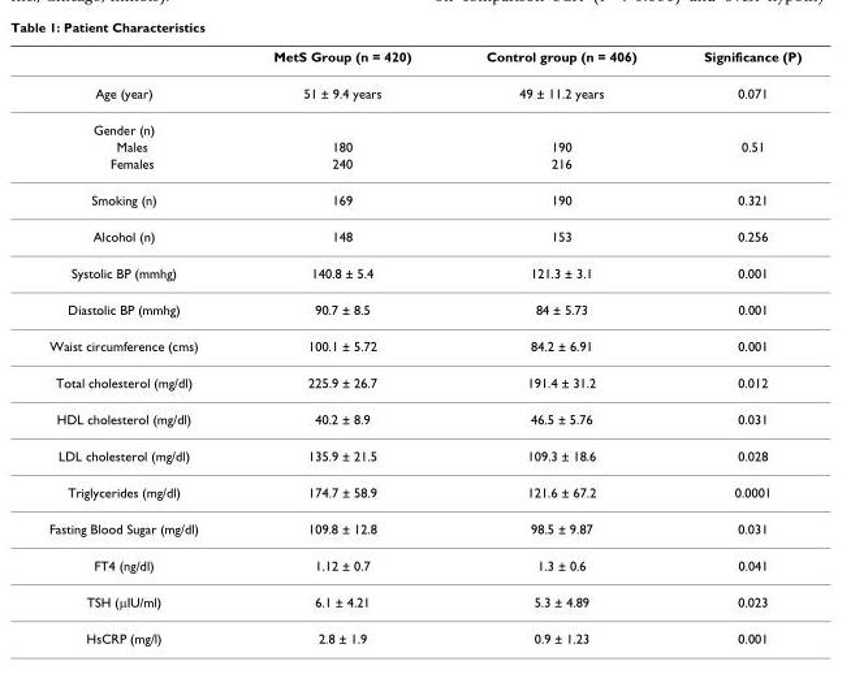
<table><thead><tr><td></td><td>MetS Group (n = 420)</td><td>Control group (n = 406)</td><td>Significance (P)</td></tr></thead><tbody><tr><td>Age (year)</td><td>51 ± 9.4 years</td><td>49 ± 11.2 years</td><td>0.071</td></tr><tr><td colspan="4">Gender (n)</td></tr><tr><td>Males</td><td>180</td><td>190</td><td>0.51</td></tr><tr><td>Females</td><td>240</td><td>216</td><td></td></tr><tr><td>Smoking (n)</td><td>169</td><td>190</td><td>0.321</td></tr><tr><td>Alcohol (n)</td><td>148</td><td>153</td><td>0.256</td></tr><tr><td>Systolic BP (mmhg)</td><td>140.8 ± 5.4</td><td>121.3 ± 3.1</td><td>0.001</td></tr><tr><td>Diastolic BP (mmhg)</td><td>90.7 ± 8.5</td><td>84 ± 5.73</td><td>0.001</td></tr><tr><td>Waist circumference (cms)</td><td>100.1 ± 5.72</td><td>84.2 ± 6.91</td><td>0.001</td></tr><tr><td>Total cholesterol (mg/dl)</td><td>225.9 ± 26.7</td><td>191.4 ± 31.2</td><td>0.012</td></tr><tr><td>HDL cholesterol (mg/dl)</td><td>40.2 ± 8.9</td><td>46.5 ± 5.76</td><td>0.031</td></tr><tr><td>LDL cholesterol (mg/dl)</td><td>135.9 ± 21.5</td><td>109.3 ± 18.6</td><td>0.028</td></tr><tr><td>Triglycerides (mg/dl)</td><td>174.7 ± 58.9</td><td>121.6 ± 67.2</td><td>0.0001</td></tr><tr><td>Fasting Blood Sugar (mg/dl)</td><td>109.8 ± 12.8</td><td>98.5 ± 9.87</td><td>0.031</td></tr><tr><td>FT4 (ng/dl)</td><td>1.12 ± 0.7</td><td>1.3 ± 0.6</td><td>0.041</td></tr><tr><td>TSH (μIU/ml)</td><td>6.1 ± 4.21</td><td>5.3 ± 4.89</td><td>0.023</td></tr><tr><td>HsCRP (mg/l)</td><td>2.8 ± 1.9</td><td>0.9 ± 1.23</td><td>0.001</td></tr></tbody></table>